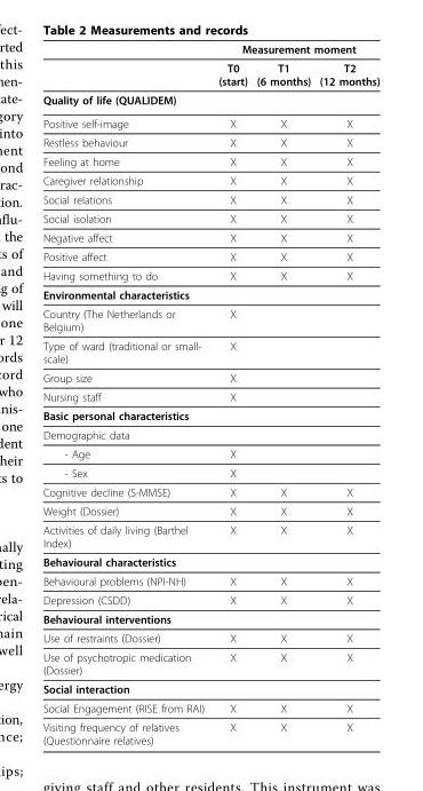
<table><thead><tr><td rowspan="2"></td><td colspan="3">Measurement moment</td></tr><tr><td>T0 (start)</td><td>T1 (6 months)</td><td>T2 (12 months)</td></tr></thead><tbody><tr><td colspan="4">Quality of life (QUALIDEM)</td></tr><tr><td>Positive self-image</td><td>X</td><td>X</td><td>X</td></tr><tr><td>Restless behaviour</td><td>X</td><td>X</td><td>X</td></tr><tr><td>Feeling at home</td><td>X</td><td>X</td><td>X</td></tr><tr><td>Caregiver relationship</td><td>X</td><td>X</td><td>X</td></tr><tr><td>Social relations</td><td>X</td><td>X</td><td>X</td></tr><tr><td>Social isolation</td><td>X</td><td>X</td><td>X</td></tr><tr><td>Negative affect</td><td>X</td><td>X</td><td>X</td></tr><tr><td>Positive affect</td><td>X</td><td>X</td><td>X</td></tr><tr><td>Having something to do</td><td>X</td><td>X</td><td>X</td></tr><tr><td colspan="4">Environmental characteristics</td></tr><tr><td>Country (The Netherlands or Belgium)</td><td>X</td><td></td><td></td></tr><tr><td>Type of ward (traditional or small- scale)</td><td>X</td><td></td><td></td></tr><tr><td>Group size</td><td>X</td><td></td><td></td></tr><tr><td>Nursing staff</td><td>X</td><td></td><td></td></tr><tr><td colspan="4">Basic personal characteristics</td></tr><tr><td colspan="4">Demographic data</td></tr><tr><td>- Age</td><td>X</td><td></td><td></td></tr><tr><td>- Sex</td><td>X</td><td></td><td></td></tr><tr><td>Cognitive decline (S-MMSE)</td><td>X</td><td>X</td><td>X</td></tr><tr><td>Weight (Dossier)</td><td>X</td><td>X</td><td>X</td></tr><tr><td>Activities of daily living (Barthel Index)</td><td>X</td><td>X</td><td>X</td></tr><tr><td colspan="4">Behavioural characteristics</td></tr><tr><td>Behavioural problems (NPI-NH)</td><td>X</td><td>X</td><td>X</td></tr><tr><td>Depression (CSDD)</td><td>X</td><td>X</td><td>X</td></tr><tr><td colspan="4">Behavioural interventions</td></tr><tr><td>Use of restraints (Dossier)</td><td>X</td><td>X</td><td>X</td></tr><tr><td>Use of psychotropic medication (Dossier)</td><td>X</td><td>X</td><td>X</td></tr><tr><td colspan="4">Social interaction</td></tr><tr><td>Social Engagement (RISE from RAI)</td><td>X</td><td>X</td><td>X</td></tr><tr><td>Visiting frequency of relatives (Questionnaire relatives)</td><td>X</td><td>X</td><td>X</td></tr></tbody></table>